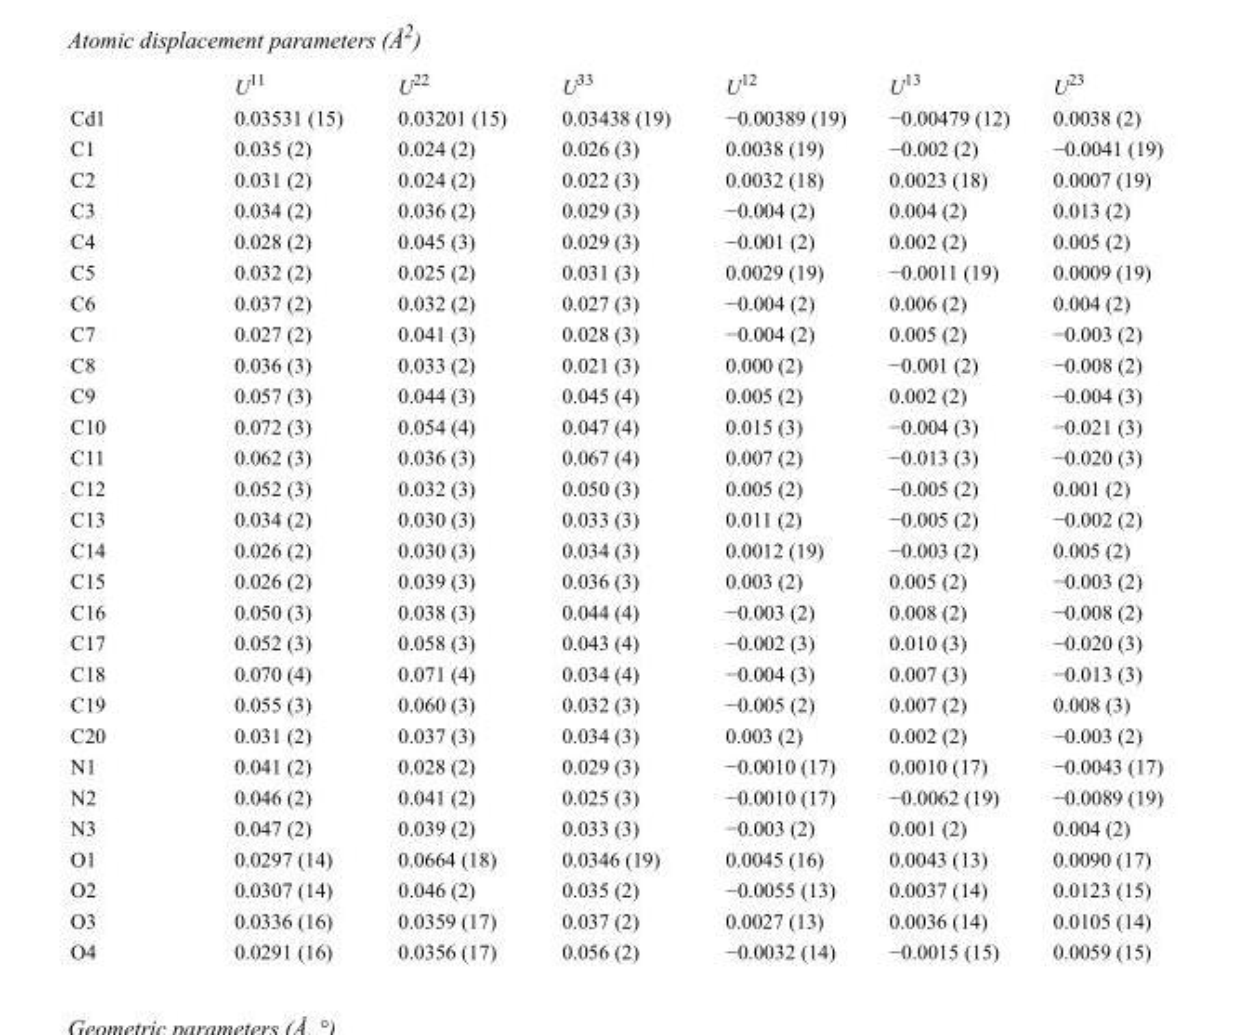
<table><thead><tr><td></td><td>U<sup>11</sup></td><td>U<sup>22</sup></td><td>U<sup>33</sup></td><td>U<sup>12</sup></td><td>U<sup>13</sup></td><td>U<sup>23</sup></td></tr></thead><tbody><tr><td>Cd1</td><td>0.03531 (15)</td><td>0.03201 (15)</td><td>0.03438 (19)</td><td>−0.00389 (19)</td><td>−0.00479 (12)</td><td>0.0038 (2)</td></tr><tr><td>C1</td><td>0.035 (2)</td><td>0.024 (2)</td><td>0.026 (3)</td><td>0.0038 (19)</td><td>−0.002 (2)</td><td>−0.0041 (19)</td></tr><tr><td>C2</td><td>0.031 (2)</td><td>0.024 (2)</td><td>0.022 (3)</td><td>0.0032 (18)</td><td>0.0023 (18)</td><td>0.0007 (19)</td></tr><tr><td>C3</td><td>0.034 (2)</td><td>0.036 (2)</td><td>0.029 (3)</td><td>−0.004 (2)</td><td>0.004 (2)</td><td>0.013 (2)</td></tr><tr><td>C4</td><td>0.028 (2)</td><td>0.045 (3)</td><td>0.029 (3)</td><td>−0.001 (2)</td><td>0.002 (2)</td><td>0.005 (2)</td></tr><tr><td>C5</td><td>0.032 (2)</td><td>0.025 (2)</td><td>0.031 (3)</td><td>0.0029 (19)</td><td>−0.0011 (19)</td><td>0.0009 (19)</td></tr><tr><td>C6</td><td>0.037 (2)</td><td>0.032 (2)</td><td>0.027 (3)</td><td>−0.004 (2)</td><td>0.006 (2)</td><td>0.004 (2)</td></tr><tr><td>C7</td><td>0.027 (2)</td><td>0.041 (3)</td><td>0.028 (3)</td><td>−0.004 (2)</td><td>0.005 (2)</td><td>−0.003 (2)</td></tr><tr><td>C8</td><td>0.036 (3)</td><td>0.033 (2)</td><td>0.021 (3)</td><td>0.000 (2)</td><td>−0.001 (2)</td><td>−0.008 (2)</td></tr><tr><td>C9</td><td>0.057 (3)</td><td>0.044 (3)</td><td>0.045 (4)</td><td>0.005 (2)</td><td>0.002 (2)</td><td>−0.004 (3)</td></tr><tr><td>C10</td><td>0.072 (3)</td><td>0.054 (4)</td><td>0.047 (4)</td><td>0.015 (3)</td><td>−0.004 (3)</td><td>−0.021 (3)</td></tr><tr><td>C11</td><td>0.062 (3)</td><td>0.036 (3)</td><td>0.067 (4)</td><td>0.007 (2)</td><td>−0.013 (3)</td><td>−0.020 (3)</td></tr><tr><td>C12</td><td>0.052 (3)</td><td>0.032 (3)</td><td>0.050 (3)</td><td>0.005 (2)</td><td>−0.005 (2)</td><td>0.001 (2)</td></tr><tr><td>C13</td><td>0.034 (2)</td><td>0.030 (3)</td><td>0.033 (3)</td><td>0.011 (2)</td><td>−0.005 (2)</td><td>−0.002 (2)</td></tr><tr><td>C14</td><td>0.026 (2)</td><td>0.030 (3)</td><td>0.034 (3)</td><td>0.0012 (19)</td><td>−0.003 (2)</td><td>0.005 (2)</td></tr><tr><td>C15</td><td>0.026 (2)</td><td>0.039 (3)</td><td>0.036 (3)</td><td>0.003 (2)</td><td>0.005 (2)</td><td>−0.003 (2)</td></tr><tr><td>C16</td><td>0.050 (3)</td><td>0.038 (3)</td><td>0.044 (4)</td><td>−0.003 (2)</td><td>0.008 (2)</td><td>−0.008 (2)</td></tr><tr><td>C17</td><td>0.052 (3)</td><td>0.058 (3)</td><td>0.043 (4)</td><td>−0.002 (3)</td><td>0.010 (3)</td><td>−0.020 (3)</td></tr><tr><td>C18</td><td>0.070 (4)</td><td>0.071 (4)</td><td>0.034 (4)</td><td>−0.004 (3)</td><td>0.007 (3)</td><td>−0.013 (3)</td></tr><tr><td>C19</td><td>0.055 (3)</td><td>0.060 (3)</td><td>0.032 (3)</td><td>−0.005 (2)</td><td>0.007 (2)</td><td>0.008 (3)</td></tr><tr><td>C20</td><td>0.031 (2)</td><td>0.037 (3)</td><td>0.034 (3)</td><td>0.003 (2)</td><td>0.002 (2)</td><td>−0.003 (2)</td></tr><tr><td>N1</td><td>0.041 (2)</td><td>0.028 (2)</td><td>0.029 (3)</td><td>−0.0010 (17)</td><td>0.0010 (17)</td><td>−0.0043 (17)</td></tr><tr><td>N2</td><td>0.046 (2)</td><td>0.041 (2)</td><td>0.025 (3)</td><td>−0.0010 (17)</td><td>−0.0062 (19)</td><td>−0.0089 (19)</td></tr><tr><td>N3</td><td>0.047 (2)</td><td>0.039 (2)</td><td>0.033 (3)</td><td>−0.003 (2)</td><td>0.001 (2)</td><td>0.004 (2)</td></tr><tr><td>O1</td><td>0.0297 (14)</td><td>0.0664 (18)</td><td>0.0346 (19)</td><td>0.0045 (16)</td><td>0.0043 (13)</td><td>0.0090 (17)</td></tr><tr><td>O2</td><td>0.0307 (14)</td><td>0.046 (2)</td><td>0.035 (2)</td><td>−0.0055 (13)</td><td>0.0037 (14)</td><td>0.0123 (15)</td></tr><tr><td>O3</td><td>0.0336 (16)</td><td>0.0359 (17)</td><td>0.037 (2)</td><td>0.0027 (13)</td><td>0.0036 (14)</td><td>0.0105 (14)</td></tr><tr><td>O4</td><td>0.0291 (16)</td><td>0.0356 (17)</td><td>0.056 (2)</td><td>−0.0032 (14)</td><td>−0.0015 (15)</td><td>0.0059 (15)</td></tr></tbody></table>